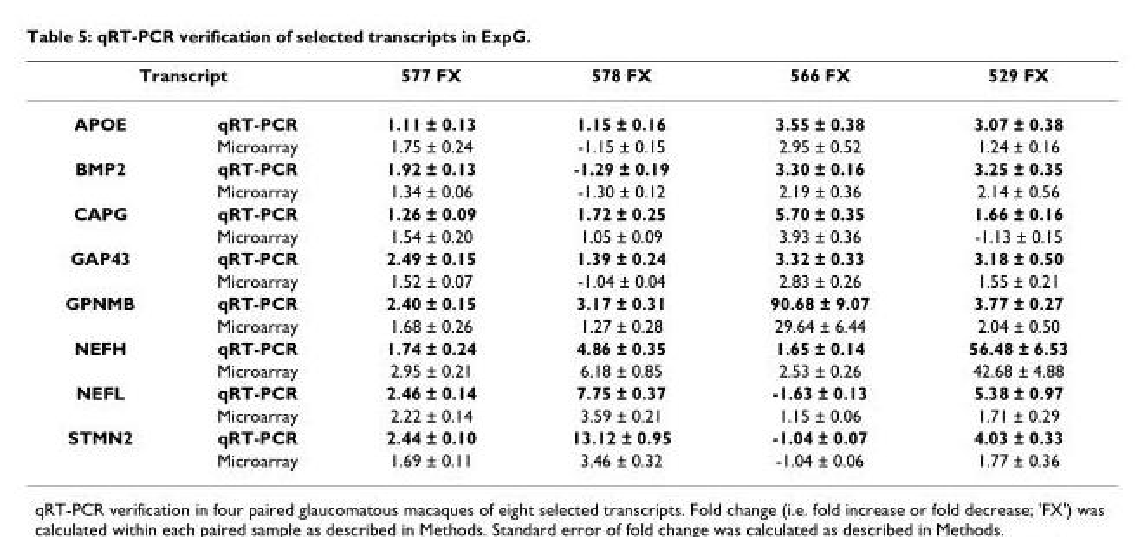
<table><thead><tr><td colspan="2">Transcript</td><td rowspan="2">577 FX 1.11 ± 0.13</td><td rowspan="2">578 FX 1.15 ± 0.16</td><td rowspan="2">566 FX 3.55 ± 0.38</td><td rowspan="2">529 FX 3.07 ± 0.38</td></tr><tr><td>APOE</td><td>qRT-PCR</td></tr></thead><tbody><tr><td></td><td>Microarray</td><td>1.75 ± 0.24</td><td>-1.15 ± 0.15</td><td>2.95 ± 0.52</td><td>1.24 ± 0.16</td></tr><tr><td rowspan="2">BMP2</td><td>qRT-PCR</td><td>1.92 ± 0.13</td><td>-1.29 ± 0.19</td><td>3.30 ± 0.16</td><td>3.25 ± 0.35</td></tr><tr><td>Microarray</td><td>1.34 ± 0.06</td><td>-1.30 ± 0.12</td><td>2.19 ± 0.36</td><td>2.14 ± 0.56</td></tr><tr><td rowspan="2">CAPG</td><td>qRT-PCR</td><td>1.26 ± 0.09</td><td>1.72 ± 0.25</td><td>5.70 ± 0.35</td><td>1.66 ± 0.16</td></tr><tr><td>Microarray</td><td>1.54 ± 0.20</td><td>1.05 ± 0.09</td><td>3.93 ± 0.36</td><td>-1.13 ± 0.15</td></tr><tr><td rowspan="2">GAP43</td><td>qRT-PCR</td><td>2.49 ± 0.15</td><td>1.39 ± 0.24</td><td>3.32 ± 0.33</td><td>3.18 ± 0.50</td></tr><tr><td>Microarray</td><td>1.52 ± 0.07</td><td>-1.04 ± 0.04</td><td>2.83 ± 0.26</td><td>1.55 ± 0.21</td></tr><tr><td rowspan="2">GPNMB</td><td>qRT-PCR</td><td>2.40 ± 0.15</td><td>3.17 ± 0.31</td><td>90.68 ± 9.07</td><td>3.77 ± 0.27</td></tr><tr><td>Microarray</td><td>1.68 ± 0.26</td><td>1.27 ± 0.28</td><td>29.64 ± 6.44</td><td>2.04 ± 0.50</td></tr><tr><td rowspan="2">NEFH</td><td>qRT-PCR</td><td>1.74 ± 0.24</td><td>4.86 ± 0.35</td><td>1.65 ± 0.14</td><td>56.48 ± 6.53</td></tr><tr><td>Microarray</td><td>2.95 ± 0.21</td><td>6.18 ± 0.85</td><td>2.53 ± 0.26</td><td>42.68 ± 4.88</td></tr><tr><td rowspan="2">NEFL</td><td>qRT-PCR</td><td>2.46 ± 0.14</td><td>7.75 ± 0.37</td><td>-1.63 ± 0.13</td><td>5.38 ± 0.97</td></tr><tr><td>Microarray</td><td>2.22 ± 0.14</td><td>3.59 ± 0.21</td><td>1.15 ± 0.06</td><td>1.71 ± 0.29</td></tr><tr><td rowspan="2">STMN2</td><td>qRT-PCR</td><td>2.44 ± 0.10</td><td>13.12 ± 0.95</td><td>-1.04 ± 0.07</td><td>4.03 ± 0.33</td></tr><tr><td>Microarray</td><td>1.69 ± 0.11</td><td>3.46 ± 0.32</td><td>-1.04 ± 0.06</td><td>1.77 ± 0.36</td></tr></tbody></table>